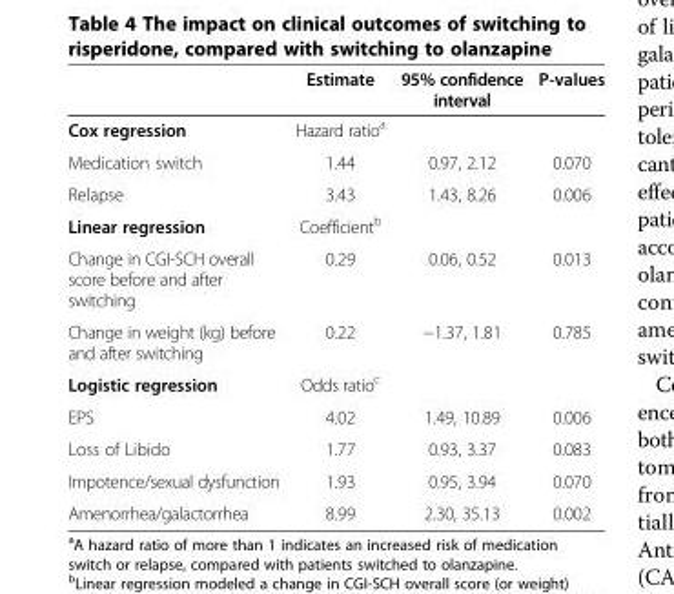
<table><thead><tr><td></td><td>Estimate</td><td>95% confidence interval</td><td>P-values</td></tr></thead><tbody><tr><td>Cox regression</td><td>Hazard ratio<sup>a</sup></td><td></td><td></td></tr><tr><td>Medication switch</td><td>1.44</td><td>0.97, 2.12</td><td>0.070</td></tr><tr><td>Relapse</td><td>3.43</td><td>1.43, 8.26</td><td>0.006</td></tr><tr><td>Linear regression</td><td>Coefficient<sup>b</sup></td><td></td><td></td></tr><tr><td>Change in CGI-SCH overall score before and after switching</td><td>0.29</td><td>0.06, 0.52</td><td>0.013</td></tr><tr><td>Change in weight (kg) before and after switching</td><td>0.22</td><td>−1.37, 1.81</td><td>0.785</td></tr><tr><td>Logistic regression</td><td>Odds ratio<sup>c</sup></td><td></td><td></td></tr><tr><td>EPS</td><td>4.02</td><td>1.49, 10.89</td><td>0.006</td></tr><tr><td>Loss of Libido</td><td>1.77</td><td>0.93, 3.37</td><td>0.083</td></tr><tr><td>Impotence/sexual dysfunction</td><td>1.93</td><td>0.95, 3.94</td><td>0.070</td></tr><tr><td>Amenorrhea/galactorrhea</td><td>8.99</td><td>2.30, 35.13</td><td>0.002</td></tr></tbody></table>